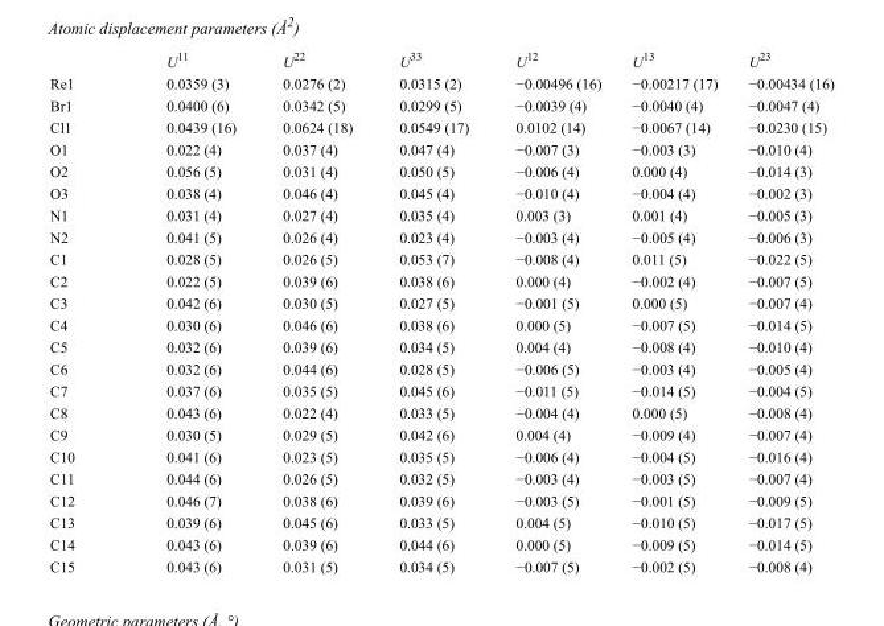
<table><thead><tr><td></td><td>U<sup>11</sup></td><td>U<sup>22</sup></td><td>U<sup>33</sup></td><td>U<sup>12</sup></td><td>U<sup>13</sup></td><td>U<sup>23</sup></td></tr></thead><tbody><tr><td>Re1</td><td>0.0359 (3)</td><td>0.0276 (2)</td><td>0.0315 (2)</td><td>−0.00496 (16)</td><td>−0.00217 (17)</td><td>−0.00434 (16)</td></tr><tr><td>Br1</td><td>0.0400 (6)</td><td>0.0342 (5)</td><td>0.0299 (5)</td><td>−0.0039 (4)</td><td>−0.0040 (4)</td><td>−0.0047 (4)</td></tr><tr><td>Cl1</td><td>0.0439 (16)</td><td>0.0624 (18)</td><td>0.0549 (17)</td><td>0.0102 (14)</td><td>−0.0067 (14)</td><td>−0.0230 (15)</td></tr><tr><td>O1</td><td>0.022 (4)</td><td>0.037 (4)</td><td>0.047 (4)</td><td>−0.007 (3)</td><td>−0.003 (3)</td><td>−0.010 (4)</td></tr><tr><td>O2</td><td>0.056 (5)</td><td>0.031 (4)</td><td>0.050 (5)</td><td>−0.006 (4)</td><td>0.000 (4)</td><td>−0.014 (3)</td></tr><tr><td>O3</td><td>0.038 (4)</td><td>0.046 (4)</td><td>0.045 (4)</td><td>−0.010 (4)</td><td>−0.004 (4)</td><td>−0.002 (3)</td></tr><tr><td>N1</td><td>0.031 (4)</td><td>0.027 (4)</td><td>0.035 (4)</td><td>0.003 (3)</td><td>0.001 (4)</td><td>−0.005 (3)</td></tr><tr><td>N2</td><td>0.041 (5)</td><td>0.026 (4)</td><td>0.023 (4)</td><td>−0.003 (4)</td><td>−0.005 (4)</td><td>−0.006 (3)</td></tr><tr><td>C1</td><td>0.028 (5)</td><td>0.026 (5)</td><td>0.053 (7)</td><td>−0.008 (4)</td><td>0.011 (5)</td><td>−0.022 (5)</td></tr><tr><td>C2</td><td>0.022 (5)</td><td>0.039 (6)</td><td>0.038 (6)</td><td>0.000 (4)</td><td>−0.002 (4)</td><td>−0.007 (5)</td></tr><tr><td>C3</td><td>0.042 (6)</td><td>0.030 (5)</td><td>0.027 (5)</td><td>−0.001 (5)</td><td>0.000 (5)</td><td>−0.007 (4)</td></tr><tr><td>C4</td><td>0.030 (6)</td><td>0.046 (6)</td><td>0.038 (6)</td><td>0.000 (5)</td><td>−0.007 (5)</td><td>−0.014 (5)</td></tr><tr><td>C5</td><td>0.032 (6)</td><td>0.039 (6)</td><td>0.034 (5)</td><td>0.004 (4)</td><td>−0.008 (4)</td><td>−0.010 (4)</td></tr><tr><td>C6</td><td>0.032 (6)</td><td>0.044 (6)</td><td>0.028 (5)</td><td>−0.006 (5)</td><td>−0.003 (4)</td><td>−0.005 (4)</td></tr><tr><td>C7</td><td>0.037 (6)</td><td>0.035 (5)</td><td>0.045 (6)</td><td>−0.011 (5)</td><td>−0.014 (5)</td><td>−0.004 (5)</td></tr><tr><td>C8</td><td>0.043 (6)</td><td>0.022 (4)</td><td>0.033 (5)</td><td>−0.004 (4)</td><td>0.000 (5)</td><td>−0.008 (4)</td></tr><tr><td>C9</td><td>0.030 (5)</td><td>0.029 (5)</td><td>0.042 (6)</td><td>0.004 (4)</td><td>−0.009 (4)</td><td>−0.007 (4)</td></tr><tr><td>C10</td><td>0.041 (6)</td><td>0.023 (5)</td><td>0.035 (5)</td><td>−0.006 (4)</td><td>−0.004 (5)</td><td>−0.016 (4)</td></tr><tr><td>C11</td><td>0.044 (6)</td><td>0.026 (5)</td><td>0.032 (5)</td><td>−0.003 (4)</td><td>−0.003 (5)</td><td>−0.007 (4)</td></tr><tr><td>C12</td><td>0.046 (7)</td><td>0.038 (6)</td><td>0.039 (6)</td><td>−0.003 (5)</td><td>−0.001 (5)</td><td>−0.009 (5)</td></tr><tr><td>C13</td><td>0.039 (6)</td><td>0.045 (6)</td><td>0.033 (5)</td><td>0.004 (5)</td><td>−0.010 (5)</td><td>−0.017 (5)</td></tr><tr><td>C14</td><td>0.043 (6)</td><td>0.039 (6)</td><td>0.044 (6)</td><td>0.000 (5)</td><td>−0.009 (5)</td><td>−0.014 (5)</td></tr><tr><td>C15</td><td>0.043 (6)</td><td>0.031 (5)</td><td>0.034 (5)</td><td>−0.007 (5)</td><td>−0.002 (5)</td><td>−0.008 (4)</td></tr></tbody></table>